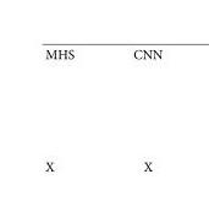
<table><tbody><tr><td>MHS</td><td>CNN</td></tr><tr><td>X</td><td>X</td></tr></tbody></table>